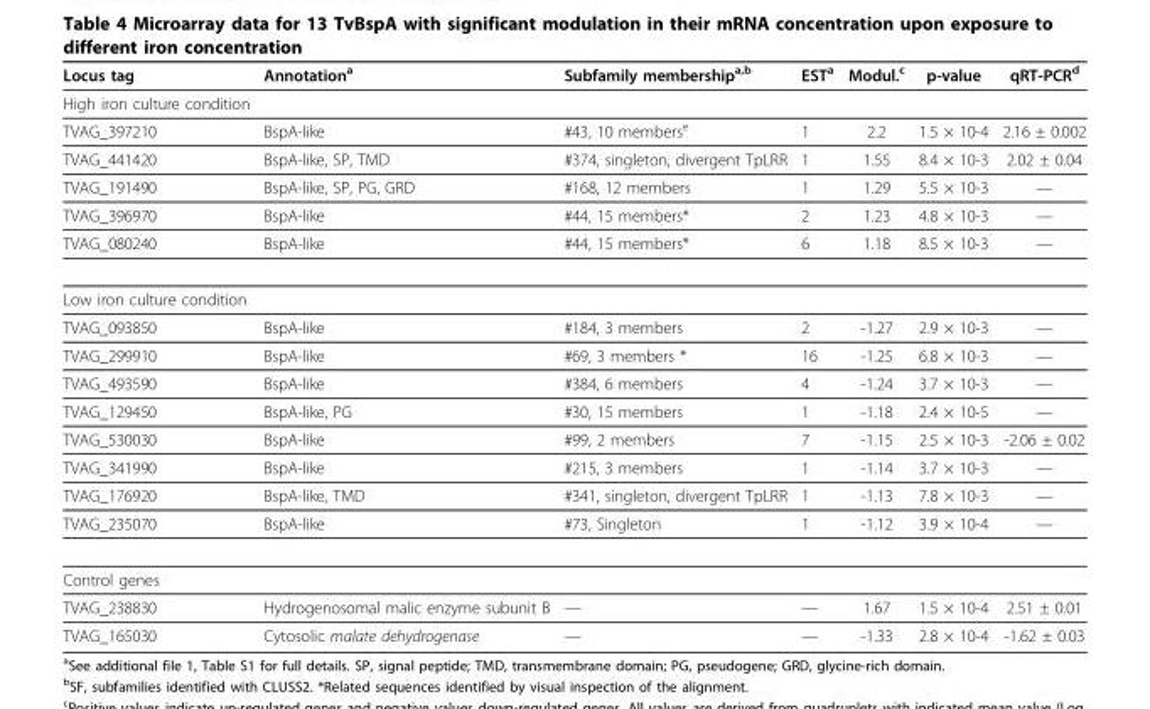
<table><thead><tr><td>Locus tag</td><td>Annotationa</td><td>Subfamily membershipa,b</td><td>ESTa</td><td>Modul.c</td><td>p-value</td><td>qRT-PCRd</td></tr></thead><tbody><tr><td colspan="7">High iron culture condition</td></tr><tr><td>TVAG_397210</td><td>BspA-like</td><td>#43, 10 memberse</td><td>1</td><td>2.2</td><td>1.5 × 10-4</td><td>2.16 ± 0.002</td></tr><tr><td>TVAG_441420</td><td>BspA-like, SP, TMD</td><td>#374, singleton, divergent TpLRR</td><td>1</td><td>1.55</td><td>8.4 × 10-3</td><td>2.02 ± 0.04</td></tr><tr><td>TVAG_191490</td><td>BspA-like, SP, PG, GRD</td><td>#168, 12 members</td><td>1</td><td>1.29</td><td>5.5 × 10-3</td><td>—</td></tr><tr><td>TVAG_396970</td><td>BspA-like</td><td>#44, 15 members*</td><td>2</td><td>1.23</td><td>4.8 × 10-3</td><td>—</td></tr><tr><td>TVAG_080240</td><td>BspA-like</td><td>#44, 15 members*</td><td>6</td><td>1.18</td><td>8.5 × 10-3</td><td>—</td></tr><tr><td colspan="7">Low iron culture condition</td></tr><tr><td>TVAG_093850</td><td>BspA-like</td><td>#184, 3 members</td><td>2</td><td>-1.27</td><td>2.9 × 10-3</td><td>—</td></tr><tr><td>TVAG_299910</td><td>BspA-like</td><td>#69, 3 members *</td><td>16</td><td>-1.25</td><td>6.8 × 10-3</td><td>—</td></tr><tr><td>TVAG_493590</td><td>BspA-like</td><td>#384, 6 members</td><td>4</td><td>-1.24</td><td>3.7 × 10-3</td><td>—</td></tr><tr><td>TVAG_129450</td><td>BspA-like, PG</td><td>#30, 15 members</td><td>1</td><td>-1.18</td><td>2.4 × 10-5</td><td>—</td></tr><tr><td>TVAG_530030</td><td>BspA-like</td><td>#99, 2 members</td><td>7</td><td>-1.15</td><td>2.5 × 10-3</td><td>-2.06 ± 0.02</td></tr><tr><td>TVAG_341990</td><td>BspA-like</td><td>#215, 3 members</td><td>1</td><td>-1.14</td><td>3.7 × 10-3</td><td>—</td></tr><tr><td>TVAG_176920</td><td>BspA-like, TMD</td><td>#341, singleton, divergent TpLRR</td><td>1</td><td>-1.13</td><td>7.8 × 10-3</td><td>—</td></tr><tr><td>TVAG_235070</td><td>BspA-like</td><td>#73, Singleton</td><td>1</td><td>-1.12</td><td>3.9 × 10-4</td><td>—</td></tr><tr><td colspan="7">Control genes</td></tr><tr><td>TVAG_238830</td><td>Hydrogenosomal malic enzyme subunit B</td><td>—</td><td>—</td><td>1.67</td><td>1.5 × 10-4</td><td>2.51 ± 0.01</td></tr><tr><td>TVAG_165030</td><td>Cytosolic malate dehydrogenase</td><td>—</td><td>—</td><td>-1.33</td><td>2.8 × 10-4</td><td>-1.62 ± 0.03</td></tr></tbody></table>